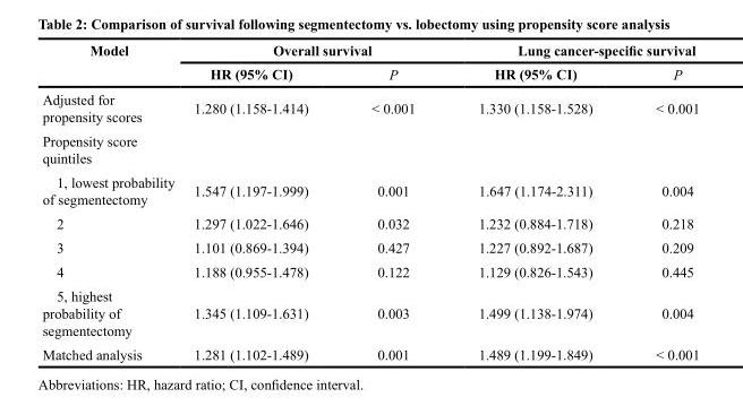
<table><thead><tr><td rowspan="2">Model</td><td colspan="2">Overall survival</td><td colspan="2">Lung cancer-specific survival</td></tr><tr><td>HR (95% CI)</td><td>P</td><td>HR (95% CI)</td><td>P</td></tr></thead><tbody><tr><td>Adjusted for propensity scores</td><td>1.280 (1.158-1.414)</td><td>&lt; 0.001</td><td>1.330 (1.158-1.528)</td><td>&lt; 0.001</td></tr><tr><td colspan="5">Propensity score quintiles</td></tr><tr><td>1, lowest probability of segmentectomy</td><td>1.547 (1.197-1.999)</td><td>0.001</td><td>1.647 (1.174-2.311)</td><td>0.004</td></tr><tr><td>2</td><td>1.297 (1.022-1.646)</td><td>0.032</td><td>1.232 (0.884-1.718)</td><td>0.218</td></tr><tr><td>3</td><td>1.101 (0.869-1.394)</td><td>0.427</td><td>1.227 (0.892-1.687)</td><td>0.209</td></tr><tr><td>4</td><td>1.188 (0.955-1.478)</td><td>0.122</td><td>1.129 (0.826-1.543)</td><td>0.445</td></tr><tr><td>5, highest probability of segmentectomy</td><td>1.345 (1.109-1.631)</td><td>0.003</td><td>1.499 (1.138-1.974)</td><td>0.004</td></tr><tr><td>Matched analysis</td><td>1.281 (1.102-1.489)</td><td>0.001</td><td>1.489 (1.199-1.849)</td><td>&lt; 0.001</td></tr></tbody></table>